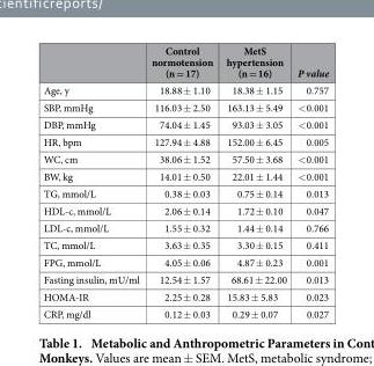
<table><thead><tr><td></td><td>Control normotension (n = 17)</td><td>MetS hypertension (n = 16)</td><td>P value</td></tr></thead><tbody><tr><td>Age, y</td><td>18.88 ± 1.10</td><td>18.38 ± 1.15</td><td>0.757</td></tr><tr><td>SBP, mmHg</td><td>116.03 ± 2.50</td><td>163.13 ± 5.49</td><td>&lt; 0.001</td></tr><tr><td>DBP, mmHg</td><td>74.04 ± 1.45</td><td>93.03 ± 3.05</td><td>&lt; 0.001</td></tr><tr><td>HR, bpm</td><td>127.94 ± 4.88</td><td>152.00 ± 6.45</td><td>0.005</td></tr><tr><td>WC, cm</td><td>38.06 ± 1.52</td><td>57.50 ± 3.68</td><td>&lt; 0.001</td></tr><tr><td>BW, kg</td><td>14.01 ± 0.50</td><td>22.01 ± 1.44</td><td>&lt; 0.001</td></tr><tr><td>TG, mmol/L</td><td>0.38 ± 0.03</td><td>0.75 ± 0.14</td><td>0.013</td></tr><tr><td>HDL-c, mmol/L</td><td>2.06 ± 0.14</td><td>1.72 ± 0.10</td><td>0.047</td></tr><tr><td>LDL-c, mmol/L</td><td>1.55 ± 0.32</td><td>1.44 ± 0.14</td><td>0.766</td></tr><tr><td>TC, mmol/L</td><td>3.63 ± 0.35</td><td>3.30 ± 0.15</td><td>0.411</td></tr><tr><td>FPG, mmol/L</td><td>4.05 ± 0.06</td><td>4.87 ± 0.23</td><td>0.001</td></tr><tr><td>Fasting insulin, mU/ml</td><td>12.54 ± 1.57</td><td>68.61 ± 22.00</td><td>0.013</td></tr><tr><td>HOMA-IR</td><td>2.25 ± 0.28</td><td>15.83 ± 5.83</td><td>0.023</td></tr><tr><td>CRP, mg/dl</td><td>0.12 ± 0.03</td><td>0.29 ± 0.07</td><td>0.027</td></tr></tbody></table>